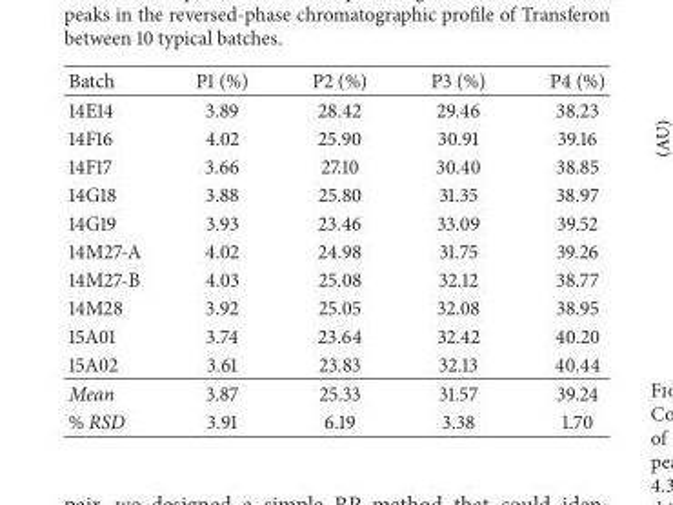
<table><thead><tr><td>Batch</td><td>P1 (%)</td><td>P2 (%)</td><td>P3 (%)</td><td>P4 (%)</td></tr></thead><tbody><tr><td>14E14</td><td>3.89</td><td>28.42</td><td>29.46</td><td>38.23</td></tr><tr><td>14F16</td><td>4.02</td><td>25.90</td><td>30.91</td><td>39.16</td></tr><tr><td>14F17</td><td>3.66</td><td>27.10</td><td>30.40</td><td>38.85</td></tr><tr><td>14G18</td><td>3.88</td><td>25.80</td><td>31.35</td><td>38.97</td></tr><tr><td>14G19</td><td>3.93</td><td>23.46</td><td>33.09</td><td>39.52</td></tr><tr><td>14M27-A</td><td>4.02</td><td>24.98</td><td>31.75</td><td>39.26</td></tr><tr><td>14M27-B</td><td>4.03</td><td>25.08</td><td>32.12</td><td>38.77</td></tr><tr><td>14M28</td><td>3.92</td><td>25.05</td><td>32.08</td><td>38.95</td></tr><tr><td>15A01</td><td>3.74</td><td>23.64</td><td>32.42</td><td>40.20</td></tr><tr><td>15A02</td><td>3.61</td><td>23.83</td><td>32.13</td><td>40.44</td></tr><tr><td>Mean</td><td>3.87</td><td>25.33</td><td>31.57</td><td>39.24</td></tr><tr><td>% RSD</td><td>3.91</td><td>6.19</td><td>3.38</td><td>1.70</td></tr></tbody></table>